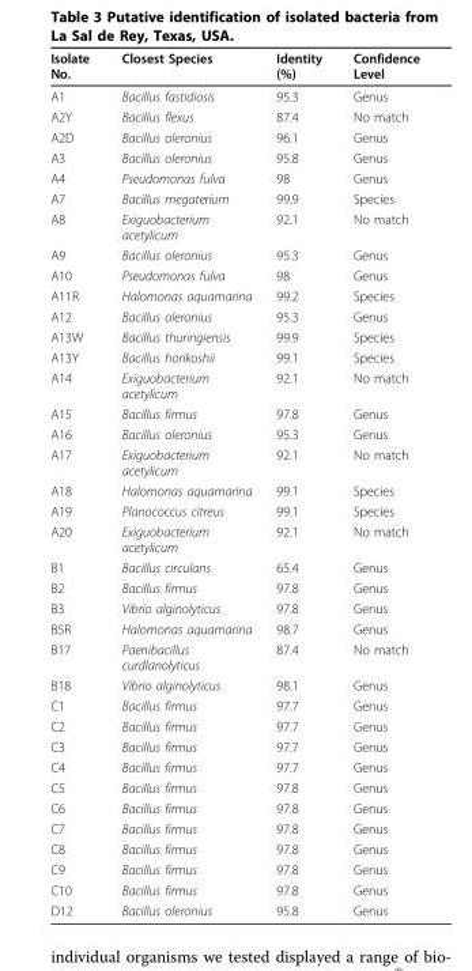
<table><thead><tr><td>Isolate No.</td><td>Closest Species</td><td>Identity (%)</td><td>Confidence Level</td></tr></thead><tbody><tr><td>A1</td><td>Bacillus fastidiosis</td><td>95.3</td><td>Genus</td></tr><tr><td>A2Y</td><td>Bacillus flexus</td><td>87.4</td><td>No match</td></tr><tr><td>A2D</td><td>Bacillus oleronius</td><td>96.1</td><td>Genus</td></tr><tr><td>A3</td><td>Bacillus oleronius</td><td>95.8</td><td>Genus</td></tr><tr><td>A4</td><td>Pseudomonas fulva</td><td>98</td><td>Genus</td></tr><tr><td>A7</td><td>Bacillus megaterium</td><td>99.9</td><td>Species</td></tr><tr><td>A8</td><td>Exiguobacterium acetylicum</td><td>92.1</td><td>No match</td></tr><tr><td>A9</td><td>Bacillus oleronius</td><td>95.3</td><td>Genus</td></tr><tr><td>A10</td><td>Pseudomonas fulva</td><td>98</td><td>Genus</td></tr><tr><td>A11R</td><td>Halomonas aquamarina</td><td>99.2</td><td>Species</td></tr><tr><td>A12</td><td>Bacillus oleronius</td><td>95.3</td><td>Genus</td></tr><tr><td>A13W</td><td>Bacillus thuringiensis</td><td>99.9</td><td>Species</td></tr><tr><td>A13Y</td><td>Bacillus horikoshii</td><td>99.1</td><td>Species</td></tr><tr><td>A14</td><td>Exiguobacterium acetylicum</td><td>92.1</td><td>No match</td></tr><tr><td>A15</td><td>Bacillus firmus</td><td>97.8</td><td>Genus</td></tr><tr><td>A16</td><td>Bacillus oleronius</td><td>95.3</td><td>Genus</td></tr><tr><td>A17</td><td>Exiguobacterium acetylicum</td><td>92.1</td><td>No match</td></tr><tr><td>A18</td><td>Halomonas aquamarina</td><td>99.1</td><td>Species</td></tr><tr><td>A19</td><td>Planococcus citreus</td><td>99.1</td><td>Species</td></tr><tr><td>A20</td><td>Exiguobacterium acetylicum</td><td>92.1</td><td>No match</td></tr><tr><td>B1</td><td>Bacillus circulans</td><td>65.4</td><td>Genus</td></tr><tr><td>B2</td><td>Bacillus firmus</td><td>97.8</td><td>Genus</td></tr><tr><td>B3</td><td>Vibrio alginolyticus</td><td>97.8</td><td>Genus</td></tr><tr><td>B5R</td><td>Halomonas aquamarina</td><td>98.7</td><td>Genus</td></tr><tr><td>B17</td><td>Paenibacillus curdlanolyticus</td><td>87.4</td><td>No match</td></tr><tr><td>B18</td><td>Vibrio alginolyticus</td><td>98.1</td><td>Genus</td></tr><tr><td>C1</td><td>Bacillus firmus</td><td>97.7</td><td>Genus</td></tr><tr><td>C2</td><td>Bacillus firmus</td><td>97.7</td><td>Genus</td></tr><tr><td>C3</td><td>Bacillus firmus</td><td>97.7</td><td>Genus</td></tr><tr><td>C4</td><td>Bacillus firmus</td><td>97.7</td><td>Genus</td></tr><tr><td>C5</td><td>Bacillus firmus</td><td>97.8</td><td>Genus</td></tr><tr><td>C6</td><td>Bacillus firmus</td><td>97.8</td><td>Genus</td></tr><tr><td>C7</td><td>Bacillus firmus</td><td>97.8</td><td>Genus</td></tr><tr><td>C8</td><td>Bacillus firmus</td><td>97.8</td><td>Genus</td></tr><tr><td>C9</td><td>Bacillus firmus</td><td>97.8</td><td>Genus</td></tr><tr><td>C10</td><td>Bacillus firmus</td><td>97.8</td><td>Genus</td></tr><tr><td>D12</td><td>Bacillus oleronius</td><td>95.8</td><td>Genus</td></tr></tbody></table>